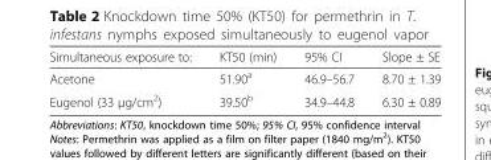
<table><thead><tr><td>Simultaneous exposure to:</td><td>KT50 (min)</td><td>95% CI</td><td>Slope ± SE</td></tr></thead><tbody><tr><td>Acetone</td><td>51.90<sup>a</sup></td><td>46.9–56.7</td><td>8.70 ± 1.39</td></tr><tr><td>Eugenol (33 μg/cm<sup>2</sup>)</td><td>39.50<sup>b</sup></td><td>34.9–44.8</td><td>6.30 ± 0.89</td></tr></tbody></table>